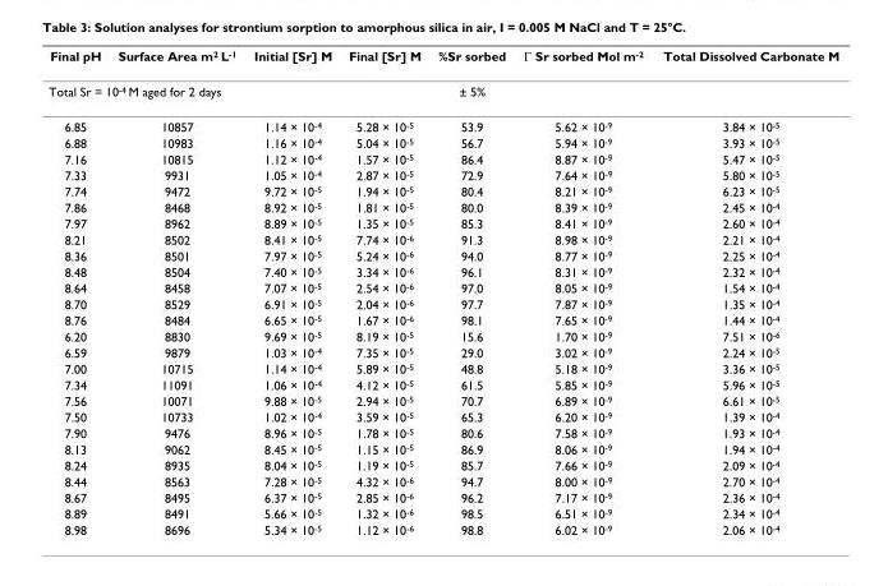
<table><thead><tr><td>Final pH</td><td>Surface Area m2 L-1</td><td>Initial [Sr] M</td><td>Final [Sr] M</td><td>%Sr sorbed</td><td>Γ Sr sorbed Mol m-2</td><td>Total Dissolved Carbonate M</td></tr></thead><tbody><tr><td colspan="3">Total Sr = 10-4 M aged for 2 days</td><td></td><td>± 5%</td><td></td><td></td></tr><tr><td>6.85</td><td>10857</td><td>1.14 × 10<sup>-4</sup></td><td>5.28 × 10<sup>-5</sup></td><td>53.9</td><td>5.62 × 10<sup>-9</sup></td><td>3.84 × 10<sup>-5</sup></td></tr><tr><td>6.88</td><td>10983</td><td>1.16 × 10<sup>-4</sup></td><td>5.04 × 10<sup>-5</sup></td><td>56.7</td><td>5.94 × 10<sup>-9</sup></td><td>3.93 × 10<sup>-5</sup></td></tr><tr><td>7.16</td><td>10815</td><td>1.12 × 10<sup>-4</sup></td><td>1.57 × 10<sup>-5</sup></td><td>86.4</td><td>8.87 × 10<sup>-9</sup></td><td>5.47 × 10<sup>-5</sup></td></tr><tr><td>7.33</td><td>9931</td><td>1.05 × 10<sup>-4</sup></td><td>2.87 × 10<sup>-5</sup></td><td>72.9</td><td>7.64 × 10<sup>-9</sup></td><td>5.80 × 10<sup>-5</sup></td></tr><tr><td>7.74</td><td>9472</td><td>9.72 × 10<sup>-5</sup></td><td>1.94 × 10<sup>-5</sup></td><td>80.4</td><td>8.21 × 10<sup>-9</sup></td><td>6.23 × 10<sup>-5</sup></td></tr><tr><td>7.86</td><td>8468</td><td>8.92 × 10<sup>-5</sup></td><td>1.81 × 10<sup>-5</sup></td><td>80.0</td><td>8.39 × 10<sup>-9</sup></td><td>2.45 × 10<sup>-4</sup></td></tr><tr><td>7.97</td><td>8962</td><td>8.89 × 10<sup>-5</sup></td><td>1.35 × 10<sup>-5</sup></td><td>85.3</td><td>8.41 × 10<sup>-9</sup></td><td>2.60 × 10<sup>-4</sup></td></tr><tr><td>8.21</td><td>8502</td><td>8.41 × 10<sup>-5</sup></td><td>7.74 × 10<sup>-6</sup></td><td>91.3</td><td>8.98 × 10<sup>-9</sup></td><td>2.21 × 10<sup>-4</sup></td></tr><tr><td>8.36</td><td>8501</td><td>7.97 × 10<sup>-5</sup></td><td>5.24 × 10<sup>-6</sup></td><td>94.0</td><td>8.77 × 10<sup>-9</sup></td><td>2.25 × 10<sup>-4</sup></td></tr><tr><td>8.48</td><td>8504</td><td>7.40 × 10<sup>-5</sup></td><td>3.34 × 10<sup>-6</sup></td><td>96.1</td><td>8.31 × 10<sup>-9</sup></td><td>2.32 × 10<sup>-4</sup></td></tr><tr><td>8.64</td><td>8458</td><td>7.07 × 10<sup>-5</sup></td><td>2.54 × 10<sup>-6</sup></td><td>97.0</td><td>8.05 × 10<sup>-9</sup></td><td>1.54 × 10<sup>-4</sup></td></tr><tr><td>8.70</td><td>8529</td><td>6.91 × 10<sup>-5</sup></td><td>2.04 × 10<sup>-6</sup></td><td>97.7</td><td>7.87 × 10<sup>-9</sup></td><td>1.35 × 10<sup>-4</sup></td></tr><tr><td>8.76</td><td>8484</td><td>6.65 × 10<sup>-5</sup></td><td>1.67 × 10<sup>-6</sup></td><td>98.1</td><td>7.65 × 10<sup>-9</sup></td><td>1.44 × 10<sup>-4</sup></td></tr><tr><td>6.20</td><td>8830</td><td>9.69 × 10<sup>-5</sup></td><td>8.19 × 10<sup>-5</sup></td><td>15.6</td><td>1.70 × 10<sup>-9</sup></td><td>7.51 × 10<sup>-6</sup></td></tr><tr><td>6.59</td><td>9879</td><td>1.03 × 10<sup>-4</sup></td><td>7.35 × 10<sup>-5</sup></td><td>29.0</td><td>3.02 × 10<sup>-9</sup></td><td>2.24 × 10<sup>-5</sup></td></tr><tr><td>7.00</td><td>10715</td><td>1.14 × 10<sup>-4</sup></td><td>5.89 × 10<sup>-5</sup></td><td>48.8</td><td>5.18 × 10<sup>-9</sup></td><td>3.36 × 10<sup>-5</sup></td></tr><tr><td>7.34</td><td>11091</td><td>1.06 × 10<sup>-4</sup></td><td>4.12 × 10<sup>-5</sup></td><td>61.5</td><td>5.85 × 10<sup>-9</sup></td><td>5.96 × 10<sup>-5</sup></td></tr><tr><td>7.56</td><td>10071</td><td>9.88 × 10<sup>-5</sup></td><td>2.94 × 10<sup>-5</sup></td><td>70.7</td><td>6.89 × 10<sup>-9</sup></td><td>6.61 × 10<sup>-5</sup></td></tr><tr><td>7.50</td><td>10733</td><td>1.02 × 10<sup>-4</sup></td><td>3.59 × 10<sup>-5</sup></td><td>65.3</td><td>6.20 × 10<sup>-9</sup></td><td>1.39 × 10<sup>-4</sup></td></tr><tr><td>7.90</td><td>9476</td><td>8.96 × 10<sup>-5</sup></td><td>1.78 × 10<sup>-5</sup></td><td>80.6</td><td>7.58 × 10<sup>-9</sup></td><td>1.93 × 10<sup>-4</sup></td></tr><tr><td>8.13</td><td>9062</td><td>8.45 × 10<sup>-5</sup></td><td>1.15 × 10<sup>-5</sup></td><td>86.9</td><td>8.06 × 10<sup>-9</sup></td><td>1.94 × 10<sup>-4</sup></td></tr><tr><td>8.24</td><td>8935</td><td>8.04 × 10<sup>-5</sup></td><td>1.19 × 10<sup>-5</sup></td><td>85.7</td><td>7.66 × 10<sup>-9</sup></td><td>2.09 × 10<sup>-4</sup></td></tr><tr><td>8.44</td><td>8563</td><td>7.28 × 10<sup>-5</sup></td><td>4.32 × 10<sup>-6</sup></td><td>94.7</td><td>8.00 × 10<sup>-9</sup></td><td>2.70 × 10<sup>-4</sup></td></tr><tr><td>8.67</td><td>8495</td><td>6.37 × 10<sup>-5</sup></td><td>2.85 × 10<sup>-6</sup></td><td>96.2</td><td>7.17 × 10<sup>-9</sup></td><td>2.36 × 10<sup>-4</sup></td></tr><tr><td>8.89</td><td>8491</td><td>5.66 × 10<sup>-5</sup></td><td>1.32 × 10<sup>-6</sup></td><td>98.5</td><td>6.51 × 10<sup>-9</sup></td><td>2.34 × 10<sup>-4</sup></td></tr><tr><td>8.98</td><td>8696</td><td>5.34 × 10<sup>-5</sup></td><td>1.12 × 10<sup>-6</sup></td><td>98.8</td><td>6.02 × 10<sup>-9</sup></td><td>2.06 × 10<sup>-4</sup></td></tr></tbody></table>